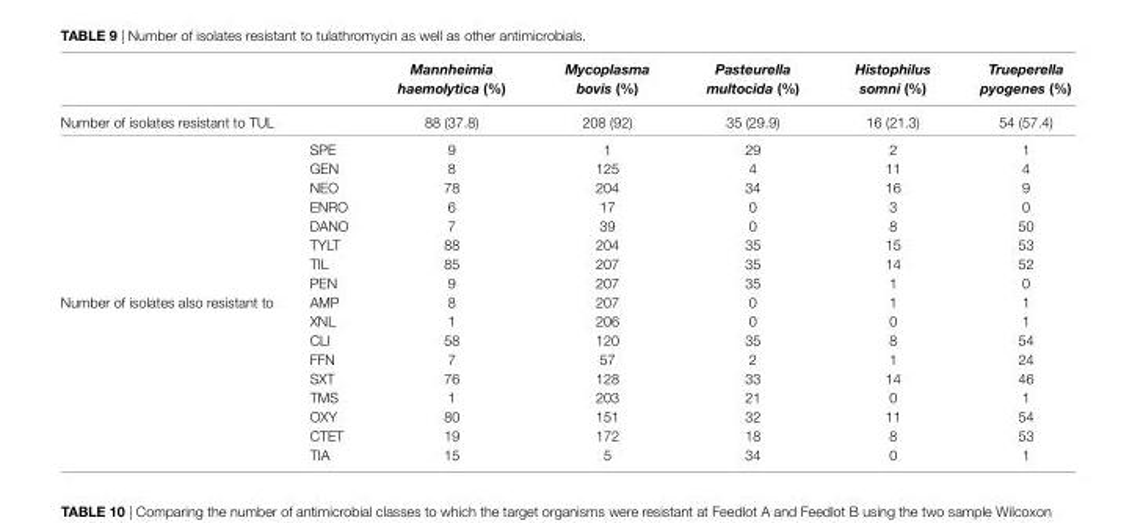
<table><thead><tr><td></td><td></td><td>Mannheimia haemolytica (%)</td><td>Mycoplasma bovis (%)</td><td>Pasteurella multocida (%)</td><td>Histophilus somni (%)</td><td>Trueperella pyogenes (%)</td></tr></thead><tbody><tr><td colspan="2">Number of isolates resistant to TUL</td><td>88 (37.8)</td><td>208 (92)</td><td>35 (29.9)</td><td>16 (21.3)</td><td>54 (57.4)</td></tr><tr><td rowspan="17">Number of isolates also resistant to</td><td>SPE</td><td>9</td><td>1</td><td>29</td><td>2</td><td>1</td></tr><tr><td>GEN</td><td>8</td><td>125</td><td>4</td><td>11</td><td>4</td></tr><tr><td>NEO</td><td>78</td><td>204</td><td>34</td><td>16</td><td>9</td></tr><tr><td>ENRO</td><td>6</td><td>17</td><td>0</td><td>3</td><td>0</td></tr><tr><td>DANO</td><td>7</td><td>39</td><td>0</td><td>8</td><td>50</td></tr><tr><td>TYLT</td><td>88</td><td>204</td><td>35</td><td>15</td><td>53</td></tr><tr><td>TIL</td><td>85</td><td>207</td><td>35</td><td>14</td><td>52</td></tr><tr><td>PEN</td><td>9</td><td>207</td><td>35</td><td>1</td><td>0</td></tr><tr><td>AMP</td><td>8</td><td>207</td><td>0</td><td>1</td><td>1</td></tr><tr><td>XNL</td><td>1</td><td>206</td><td>0</td><td>0</td><td>1</td></tr><tr><td>CLI</td><td>58</td><td>120</td><td>35</td><td>8</td><td>54</td></tr><tr><td>FFN</td><td>7</td><td>57</td><td>2</td><td>1</td><td>24</td></tr><tr><td>SXT</td><td>76</td><td>128</td><td>33</td><td>14</td><td>46</td></tr><tr><td>TMS</td><td>1</td><td>203</td><td>21</td><td>0</td><td>1</td></tr><tr><td>OXY</td><td>80</td><td>151</td><td>32</td><td>11</td><td>54</td></tr><tr><td>CTET</td><td>19</td><td>172</td><td>18</td><td>8</td><td>53</td></tr><tr><td>TIA</td><td>15</td><td>5</td><td>34</td><td>0</td><td>1</td></tr></tbody></table>